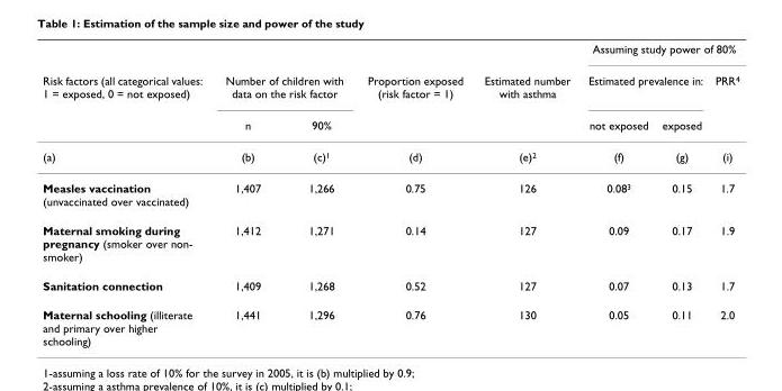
<table><thead><tr><td rowspan="3">Risk factors (all categorical values: 1 = exposed, 0 = not exposed)</td><td></td><td></td><td rowspan="3">Proportion exposed (risk factor = 1)</td><td rowspan="3">Estimated number with asthma</td><td colspan="3">Assuming study power of 80%</td></tr><tr><td colspan="2">Number of children with data on the risk factor</td><td colspan="2">Estimated prevalence in:</td><td rowspan="2">PRR4</td></tr><tr><td>n</td><td>90%</td><td>not exposed</td><td>exposed</td></tr></thead><tbody><tr><td>(a)</td><td>(b)</td><td>(c)1</td><td>(d)</td><td>(e)2</td><td>(f)</td><td>(g)</td><td>(i)</td></tr><tr><td>Measles vaccination (unvaccinated over vaccinated)</td><td>1,407</td><td>1,266</td><td>0.75</td><td>126</td><td>0.083</td><td>0.15</td><td>1.7</td></tr><tr><td>Maternal smoking during pregnancy (smoker over non- smoker)</td><td>1,412</td><td>1,271</td><td>0.14</td><td>127</td><td>0.09</td><td>0.17</td><td>1.9</td></tr><tr><td>Sanitation connection</td><td>1,409</td><td>1,268</td><td>0.52</td><td>127</td><td>0.07</td><td>0.13</td><td>1.7</td></tr><tr><td>Maternal schooling (illiterate and primary over higher schooling)</td><td>1,441</td><td>1,296</td><td>0.76</td><td>130</td><td>0.05</td><td>0.11</td><td>2.0</td></tr></tbody></table>